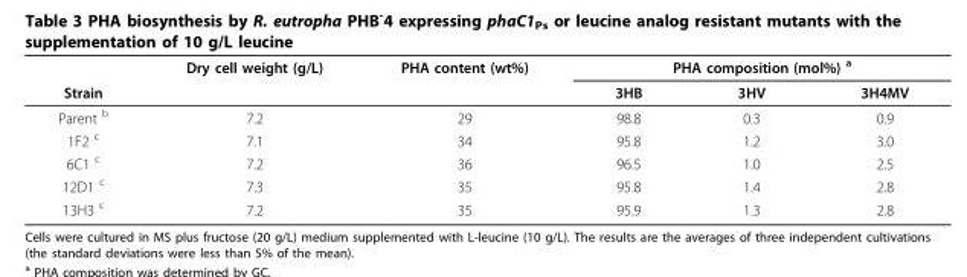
<table><thead><tr><td rowspan="2">Strain</td><td rowspan="2">Dry cell weight (g/L)</td><td rowspan="2">PHA content (wt%)</td><td colspan="3">PHA composition (mol%) <sup>a</sup></td></tr><tr><td>3HB</td><td>3HV</td><td>3H4MV</td></tr></thead><tbody><tr><td>Parent <sup>b</sup></td><td>7.2</td><td>29</td><td>98.8</td><td>0.3</td><td>0.9</td></tr><tr><td>1F2 <sup>c</sup></td><td>7.1</td><td>34</td><td>95.8</td><td>1.2</td><td>3.0</td></tr><tr><td>6C1 <sup>c</sup></td><td>7.2</td><td>36</td><td>96.5</td><td>1.0</td><td>2.5</td></tr><tr><td>12D1 <sup>c</sup></td><td>7.3</td><td>35</td><td>95.8</td><td>1.4</td><td>2.8</td></tr><tr><td>13H3 <sup>c</sup></td><td>7.2</td><td>35</td><td>95.9</td><td>1.3</td><td>2.8</td></tr></tbody></table>